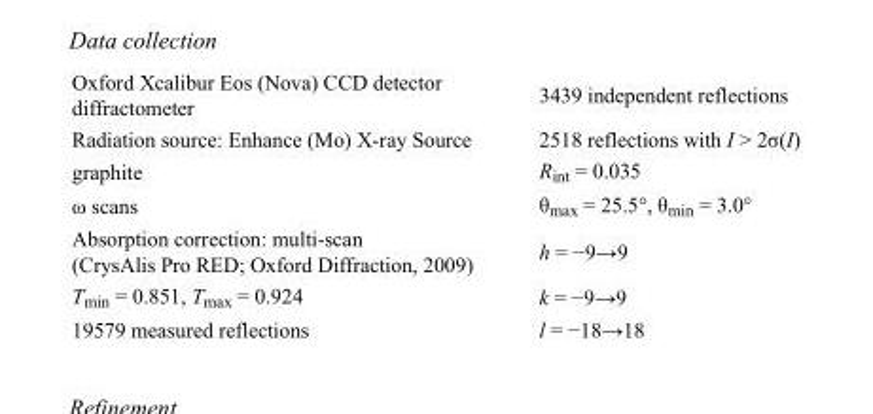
<table><tbody><tr><td>Oxford Xcalibur Eos (Nova) CCD detector diffractometer</td><td>3439 independent reflections</td></tr><tr><td>Radiation source: Enhance (Mo) X-ray Source</td><td>2518 reflections with I &gt; 2σ(I)</td></tr><tr><td>graphite</td><td>R<sub>int</sub> = 0.035</td></tr><tr><td>ω scans</td><td>θ<sub>max</sub> = 25.5°, θ<sub>min</sub> = 3.0°</td></tr><tr><td>Absorption correction: multi-scan (CrysAlis Pro RED; Oxford Diffraction, 2009)</td><td>h = −9→9</td></tr><tr><td>T<sub>min</sub> = 0.851, T<sub>max</sub> = 0.924</td><td>k = −9→9</td></tr><tr><td>19579 measured reflections</td><td>l = −18→18</td></tr></tbody></table>